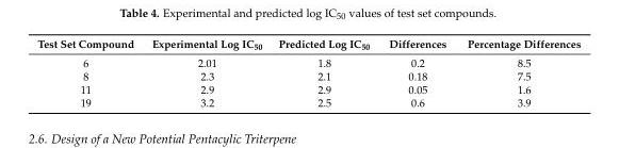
<table><thead><tr><td>Test Set Compound</td><td>Experimental Log IC<sub>50</sub></td><td>Predicted Log IC<sub>50</sub></td><td>Differences</td><td>Percentage Differences</td></tr></thead><tbody><tr><td>6</td><td>2.01</td><td>1.8</td><td>0.2</td><td>8.5</td></tr><tr><td>8</td><td>2.3</td><td>2.1</td><td>0.18</td><td>7.5</td></tr><tr><td>11</td><td>2.9</td><td>2.9</td><td>0.05</td><td>1.6</td></tr><tr><td>19</td><td>3.2</td><td>2.5</td><td>0.6</td><td>3.9</td></tr></tbody></table>